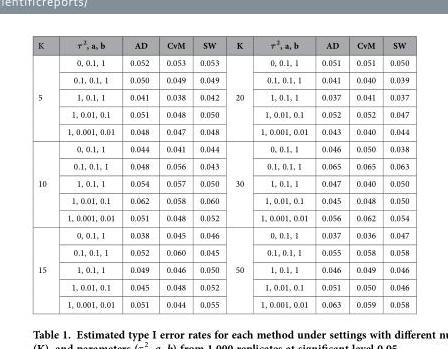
<table><thead><tr><td>K</td><td>τ 2, a, b</td><td>AD</td><td>CvM</td><td>SW</td><td>K</td><td>τ 2, a, b</td><td>AD</td><td>CvM</td><td>SW</td></tr></thead><tbody><tr><td rowspan="5">5</td><td>0, 0.1, 1</td><td>0.052</td><td>0.053</td><td>0.053</td><td rowspan="5">20</td><td>0, 0.1, 1</td><td>0.051</td><td>0.051</td><td>0.050</td></tr><tr><td>0.1, 0.1, 1</td><td>0.050</td><td>0.049</td><td>0.049</td><td>0.1, 0.1, 1</td><td>0.041</td><td>0.040</td><td>0.039</td></tr><tr><td>1, 0.1, 1</td><td>0.041</td><td>0.038</td><td>0.042</td><td>1, 0.1, 1</td><td>0.037</td><td>0.041</td><td>0.037</td></tr><tr><td>1, 0.01, 0.1</td><td>0.051</td><td>0.048</td><td>0.050</td><td>1, 0.01, 0.1</td><td>0.052</td><td>0.052</td><td>0.047</td></tr><tr><td>1, 0.001, 0.01</td><td>0.048</td><td>0.047</td><td>0.048</td><td>1, 0.001, 0.01</td><td>0.043</td><td>0.040</td><td>0.044</td></tr><tr><td rowspan="5">10</td><td>0, 0.1, 1</td><td>0.044</td><td>0.041</td><td>0.044</td><td rowspan="5">30</td><td>0, 0.1, 1</td><td>0.046</td><td>0.050</td><td>0.038</td></tr><tr><td>0.1, 0.1, 1</td><td>0.048</td><td>0.056</td><td>0.043</td><td>0.1, 0.1, 1</td><td>0.065</td><td>0.065</td><td>0.063</td></tr><tr><td>1, 0.1, 1</td><td>0.054</td><td>0.057</td><td>0.050</td><td>1, 0.1, 1</td><td>0.047</td><td>0.040</td><td>0.050</td></tr><tr><td>1, 0.01, 0.1</td><td>0.062</td><td>0.058</td><td>0.060</td><td>1, 0.01, 0.1</td><td>0.045</td><td>0.048</td><td>0.050</td></tr><tr><td>1, 0.001, 0.01</td><td>0.051</td><td>0.048</td><td>0.052</td><td>1, 0.001, 0.01</td><td>0.056</td><td>0.062</td><td>0.054</td></tr><tr><td rowspan="5">15</td><td>0, 0.1, 1</td><td>0.038</td><td>0.045</td><td>0.046</td><td rowspan="5">50</td><td>0, 0.1, 1</td><td>0.037</td><td>0.036</td><td>0.047</td></tr><tr><td>0.1, 0.1, 1</td><td>0.052</td><td>0.060</td><td>0.045</td><td>0.1, 0.1, 1</td><td>0.055</td><td>0.058</td><td>0.058</td></tr><tr><td>1, 0.1, 1</td><td>0.049</td><td>0.046</td><td>0.050</td><td>1, 0.1, 1</td><td>0.046</td><td>0.049</td><td>0.046</td></tr><tr><td>1, 0.01, 0.1</td><td>0.045</td><td>0.048</td><td>0.052</td><td>1, 0.01, 0.1</td><td>0.051</td><td>0.050</td><td>0.046</td></tr><tr><td>1, 0.001, 0.01</td><td>0.051</td><td>0.044</td><td>0.055</td><td>1, 0.001, 0.01</td><td>0.063</td><td>0.059</td><td>0.058</td></tr></tbody></table>